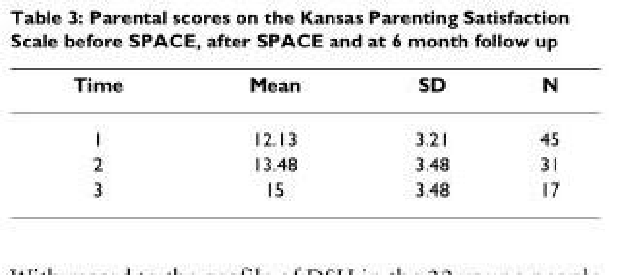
<table><thead><tr><td>Time</td><td>Mean</td><td>SD</td><td>N</td></tr></thead><tbody><tr><td>1</td><td>12.13</td><td>3.21</td><td>45</td></tr><tr><td>2</td><td>13.48</td><td>3.48</td><td>31</td></tr><tr><td>3</td><td>15</td><td>3.48</td><td>17</td></tr></tbody></table>